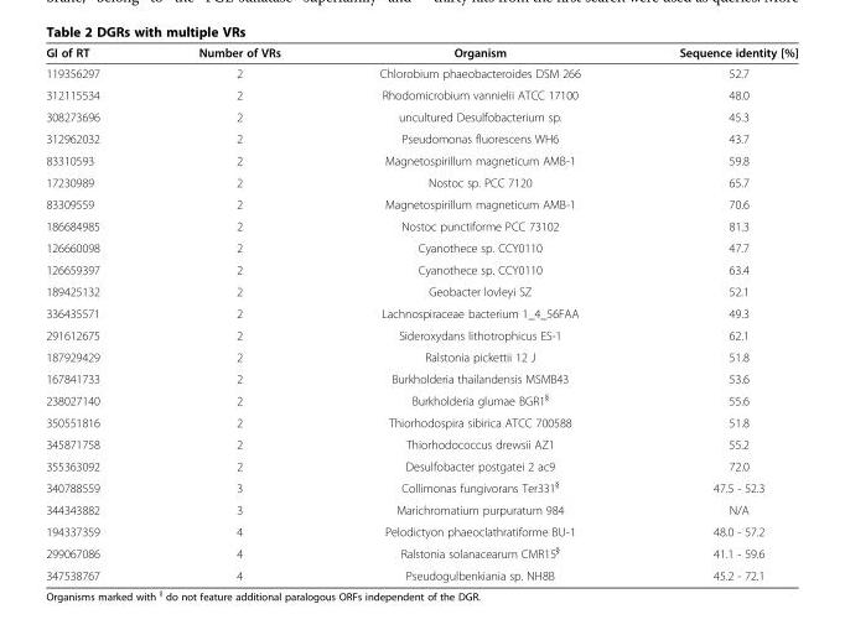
<table><thead><tr><td>GI of RT</td><td>Number of VRs</td><td>Organism</td><td>Sequence identity [%]</td></tr></thead><tbody><tr><td>119356297</td><td>2</td><td>Chlorobium phaeobacteroides DSM 266</td><td>52.7</td></tr><tr><td>312115534</td><td>2</td><td>Rhodomicrobium vannielii ATCC 17100</td><td>48.0</td></tr><tr><td>308273696</td><td>2</td><td>uncultured Desulfobacterium sp.</td><td>45.3</td></tr><tr><td>312962032</td><td>2</td><td>Pseudomonas fluorescens WH6</td><td>43.7</td></tr><tr><td>83310593</td><td>2</td><td>Magnetospirillum magneticum AMB-1</td><td>59.8</td></tr><tr><td>17230989</td><td>2</td><td>Nostoc sp. PCC 7120</td><td>65.7</td></tr><tr><td>83309559</td><td>2</td><td>Magnetospirillum magneticum AMB-1</td><td>70.6</td></tr><tr><td>186684985</td><td>2</td><td>Nostoc punctiforme PCC 73102</td><td>81.3</td></tr><tr><td>126660098</td><td>2</td><td>Cyanothece sp. CCY0110</td><td>47.7</td></tr><tr><td>126659397</td><td>2</td><td>Cyanothece sp. CCY0110</td><td>63.4</td></tr><tr><td>189425132</td><td>2</td><td>Geobacter lovleyi SZ</td><td>52.1</td></tr><tr><td>336435571</td><td>2</td><td>Lachnospiraceae bacterium 1_4_56FAA</td><td>49.3</td></tr><tr><td>291612675</td><td>2</td><td>Sideroxydans lithotrophicus ES-1</td><td>62.1</td></tr><tr><td>187929429</td><td>2</td><td>Ralstonia pickettii 12 J</td><td>51.8</td></tr><tr><td>167841733</td><td>2</td><td>Burkholderia thailandensis MSMB43</td><td>53.6</td></tr><tr><td>238027140</td><td>2</td><td>Burkholderia glumae BGR1<sup>§</sup></td><td>55.6</td></tr><tr><td>350551816</td><td>2</td><td>Thiorhodospira sibirica ATCC 700588</td><td>51.8</td></tr><tr><td>345871758</td><td>2</td><td>Thiorhodococcus drewsii AZ1</td><td>55.2</td></tr><tr><td>355363092</td><td>2</td><td>Desulfobacter postgatei 2 ac9</td><td>72.0</td></tr><tr><td>340788559</td><td>3</td><td>Collimonas fungivorans Ter331<sup>§</sup></td><td>47.5 - 52.3</td></tr><tr><td>344343882</td><td>3</td><td>Marichromatium purpuratum 984</td><td>N/A</td></tr><tr><td>194337359</td><td>4</td><td>Pelodictyon phaeoclathratiforme BU-1</td><td>48.0 - 57.2</td></tr><tr><td>299067086</td><td>4</td><td>Ralstonia solanacearum CMR15<sup>§</sup></td><td>41.1 - 59.6</td></tr><tr><td>347538767</td><td>4</td><td>Pseudogulbenkiania sp. NH8B</td><td>45.2 - 72.1</td></tr></tbody></table>